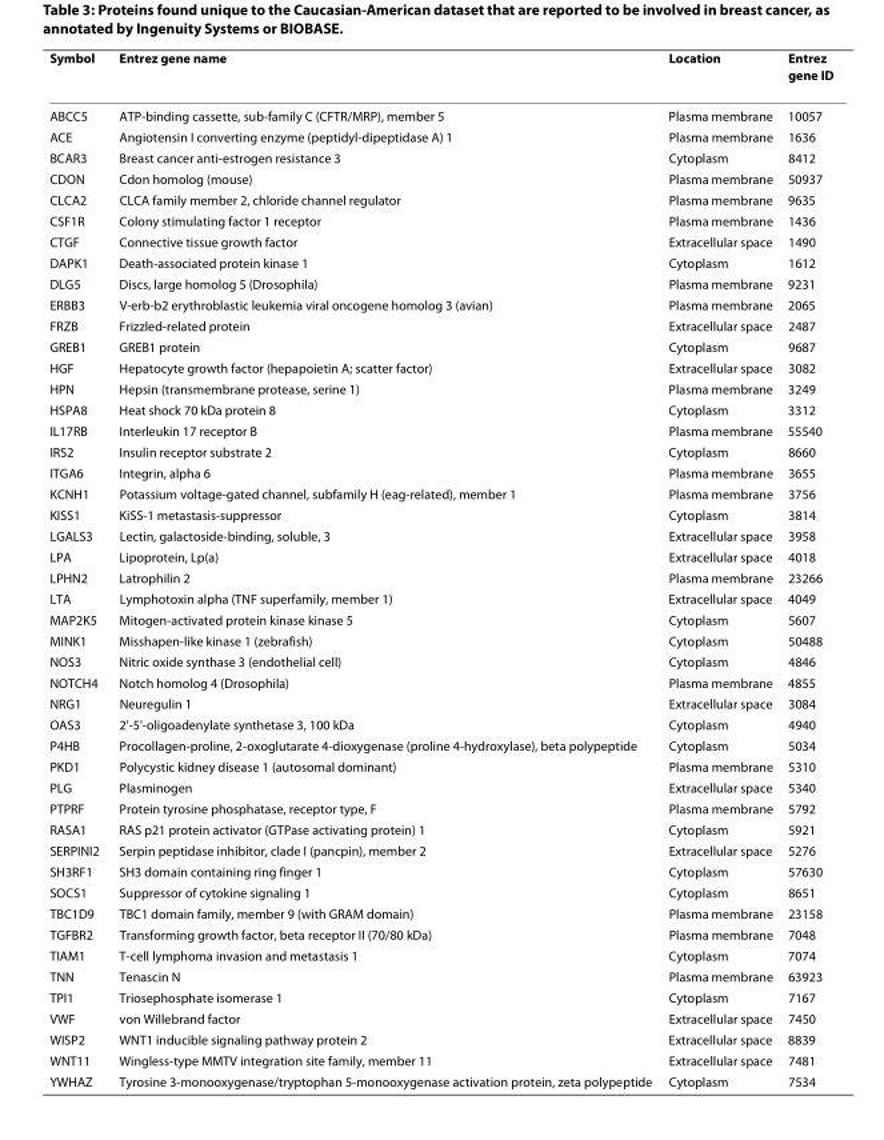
<table><thead><tr><td>Symbol</td><td>Entrez gene name</td><td>Location</td><td>Entrez gene ID</td></tr></thead><tbody><tr><td>ABCC5</td><td>ATP-binding cassette, sub-family C (CFTR/MRP), member 5</td><td>Plasma membrane</td><td>10057</td></tr><tr><td>ACE</td><td>Angiotensin I converting enzyme (peptidyl-dipeptidase A) 1</td><td>Plasma membrane</td><td>1636</td></tr><tr><td>BCAR3</td><td>Breast cancer anti-estrogen resistance 3</td><td>Cytoplasm</td><td>8412</td></tr><tr><td>CDON</td><td>Cdon homolog (mouse)</td><td>Plasma membrane</td><td>50937</td></tr><tr><td>CLCA2</td><td>CLCA family member 2, chloride channel regulator</td><td>Plasma membrane</td><td>9635</td></tr><tr><td>CSF1R</td><td>Colony stimulating factor 1 receptor</td><td>Plasma membrane</td><td>1436</td></tr><tr><td>CTGF</td><td>Connective tissue growth factor</td><td>Extracellular space</td><td>1490</td></tr><tr><td>DAPK1</td><td>Death-associated protein kinase 1</td><td>Cytoplasm</td><td>1612</td></tr><tr><td>DLG5</td><td>Discs, large homolog 5 (Drosophila)</td><td>Plasma membrane</td><td>9231</td></tr><tr><td>ERBB3</td><td>V-erb-b2 erythroblastic leukemia viral oncogene homolog 3 (avian)</td><td>Plasma membrane</td><td>2065</td></tr><tr><td>FRZB</td><td>Frizzled-related protein</td><td>Extracellular space</td><td>2487</td></tr><tr><td>GREB1</td><td>GREB1 protein</td><td>Cytoplasm</td><td>9687</td></tr><tr><td>HGF</td><td>Hepatocyte growth factor (hepapoietin A; scatter factor)</td><td>Extracellular space</td><td>3082</td></tr><tr><td>HPN</td><td>Hepsin (transmembrane protease, serine 1)</td><td>Plasma membrane</td><td>3249</td></tr><tr><td>HSPA8</td><td>Heat shock 70 kDa protein 8</td><td>Cytoplasm</td><td>3312</td></tr><tr><td>IL17RB</td><td>Interleukin 17 receptor B</td><td>Plasma membrane</td><td>55540</td></tr><tr><td>IRS2</td><td>Insulin receptor substrate 2</td><td>Cytoplasm</td><td>8660</td></tr><tr><td>ITGA6</td><td>Integrin, alpha 6</td><td>Plasma membrane</td><td>3655</td></tr><tr><td>KCNH1</td><td>Potassium voltage-gated channel, subfamily H (eag-related), member 1</td><td>Plasma membrane</td><td>3756</td></tr><tr><td>KISS1</td><td>KiSS-1 metastasis-suppressor</td><td>Cytoplasm</td><td>3814</td></tr><tr><td>LGALS3</td><td>Lectin, galactoside-binding, soluble, 3</td><td>Extracellular space</td><td>3958</td></tr><tr><td>LPA</td><td>Lipoprotein, Lp(a)</td><td>Extracellular space</td><td>4018</td></tr><tr><td>LPHN2</td><td>Latrophilin 2</td><td>Plasma membrane</td><td>23266</td></tr><tr><td>LTA</td><td>Lymphotoxin alpha (TNF superfamily, member 1)</td><td>Extracellular space</td><td>4049</td></tr><tr><td>MAP2K5</td><td>Mitogen-activated protein kinase kinase 5</td><td>Cytoplasm</td><td>5607</td></tr><tr><td>MINK1</td><td>Misshapen-like kinase 1 (zebrafish)</td><td>Cytoplasm</td><td>50488</td></tr><tr><td>NOS3</td><td>Nitric oxide synthase 3 (endothelial cell)</td><td>Cytoplasm</td><td>4846</td></tr><tr><td>NOTCH4</td><td>Notch homolog 4 (Drosophila)</td><td>Plasma membrane</td><td>4855</td></tr><tr><td>NRG1</td><td>Neuregulin 1</td><td>Extracellular space</td><td>3084</td></tr><tr><td>OAS3</td><td>2&#x27;-5&#x27;-oligoadenylate synthetase 3, 100 kDa</td><td>Cytoplasm</td><td>4940</td></tr><tr><td>P4HB</td><td>Procollagen-proline, 2-oxoglutarate 4-dioxygenase (proline 4-hydroxylase), beta polypeptide</td><td>Cytoplasm</td><td>5034</td></tr><tr><td>PKD1</td><td>Polycystic kidney disease 1 (autosomal dominant)</td><td>Plasma membrane</td><td>5310</td></tr><tr><td>PLG</td><td>Plasminogen</td><td>Extracellular space</td><td>5340</td></tr><tr><td>PTPRF</td><td>Protein tyrosine phosphatase, receptor type, F</td><td>Plasma membrane</td><td>5792</td></tr><tr><td>RASA1</td><td>RAS p21 protein activator (GTPase activating protein) 1</td><td>Cytoplasm</td><td>5921</td></tr><tr><td>SERPINI2</td><td>Serpin peptidase inhibitor, clade I (pancpin), member 2</td><td>Extracellular space</td><td>5276</td></tr><tr><td>SH3RF1</td><td>SH3 domain containing ring finger 1</td><td>Cytoplasm</td><td>57630</td></tr><tr><td>SOCS1</td><td>Suppressor of cytokine signaling 1</td><td>Cytoplasm</td><td>8651</td></tr><tr><td>TBC1D9</td><td>TBC1 domain family, member 9 (with GRAM domain)</td><td>Plasma membrane</td><td>23158</td></tr><tr><td>TGFBR2</td><td>Transforming growth factor, beta receptor II (70/80 kDa)</td><td>Plasma membrane</td><td>7048</td></tr><tr><td>TIAM1</td><td>T-cell lymphoma invasion and metastasis 1</td><td>Cytoplasm</td><td>7074</td></tr><tr><td>TNN</td><td>Tenascin N</td><td>Plasma membrane</td><td>63923</td></tr><tr><td>TPI1</td><td>Triosephosphate isomerase 1</td><td>Cytoplasm</td><td>7167</td></tr><tr><td>VWF</td><td>von Willebrand factor</td><td>Extracellular space</td><td>7450</td></tr><tr><td>WISP2</td><td>WNT1 inducible signaling pathway protein 2</td><td>Extracellular space</td><td>8839</td></tr><tr><td>WNT11</td><td>Wingless-type MMTV integration site family, member 11</td><td>Extracellular space</td><td>7481</td></tr><tr><td>YWHAZ</td><td>Tyrosine 3-monooxygenase/tryptophan 5-monooxygenase activation protein, zeta polypeptide</td><td>Cytoplasm</td><td>7534</td></tr></tbody></table>